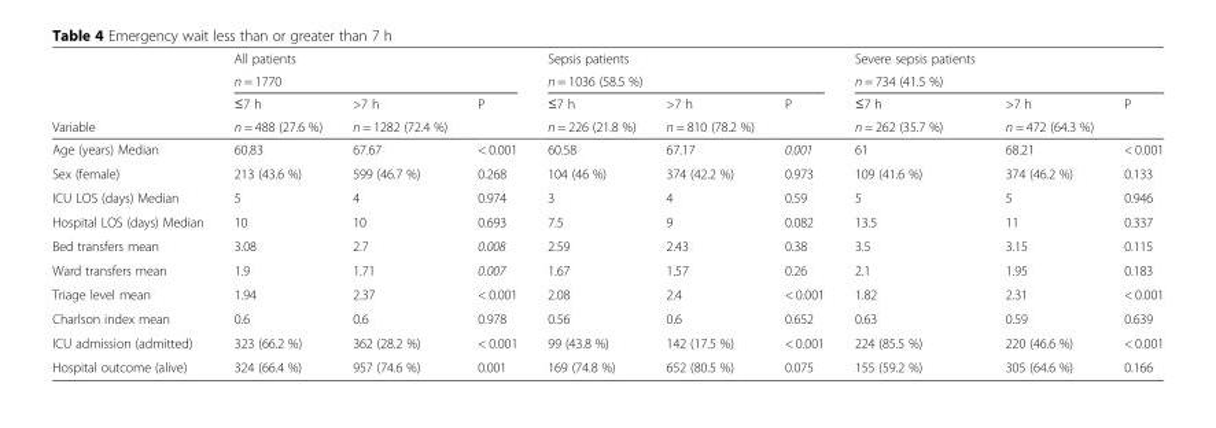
<table><thead><tr><td rowspan="4">Variable</td><td>All patients</td><td></td><td></td><td>Sepsis patients</td><td></td><td></td><td>Severe sepsis patients</td><td></td><td></td></tr><tr><td colspan="3">n = 1770</td><td colspan="3">n = 1036 (58.5 %)</td><td colspan="3">n = 734 (41.5 %)</td></tr><tr><td rowspan="2">≤7 h n = 488 (27.6 %)</td><td rowspan="2">&gt;7 h n = 1282 (72.4 %)</td><td rowspan="2">P</td><td rowspan="2">≤7 h n = 226 (21.8 %)</td><td rowspan="2">&gt;7 h n = 810 (78.2 %)</td><td rowspan="2">P</td><td rowspan="2">≤7 h n = 262 (35.7 %)</td><td rowspan="2">&gt;7 h n = 472 (64.3 %)</td><td rowspan="2">P</td></tr><tr></tr></thead><tbody><tr><td>Age (years) Median</td><td>60.83</td><td>67.67</td><td>&lt; 0.001</td><td>60.58</td><td>67.17</td><td>0.001</td><td>61</td><td>68.21</td><td>&lt; 0.001</td></tr><tr><td>Sex (female)</td><td>213 (43.6 %)</td><td>599 (46.7 %)</td><td>0.268</td><td>104 (46 %)</td><td>374 (42.2 %)</td><td>0.973</td><td>109 (41.6 %)</td><td>374 (46.2 %)</td><td>0.133</td></tr><tr><td>ICU LOS (days) Median</td><td>5</td><td>4</td><td>0.974</td><td>3</td><td>4</td><td>0.59</td><td>5</td><td>5</td><td>0.946</td></tr><tr><td>Hospital LOS (days) Median</td><td>10</td><td>10</td><td>0.693</td><td>7.5</td><td>9</td><td>0.082</td><td>13.5</td><td>11</td><td>0.337</td></tr><tr><td>Bed transfers mean</td><td>3.08</td><td>2.7</td><td>0.008</td><td>2.59</td><td>2.43</td><td>0.38</td><td>3.5</td><td>3.15</td><td>0.115</td></tr><tr><td>Ward transfers mean</td><td>1.9</td><td>1.71</td><td>0.007</td><td>1.67</td><td>1.57</td><td>0.26</td><td>2.1</td><td>1.95</td><td>0.183</td></tr><tr><td>Triage level mean</td><td>1.94</td><td>2.37</td><td>&lt; 0.001</td><td>2.08</td><td>2.4</td><td>&lt; 0.001</td><td>1.82</td><td>2.31</td><td>&lt; 0.001</td></tr><tr><td>Charlson index mean</td><td>0.6</td><td>0.6</td><td>0.978</td><td>0.56</td><td>0.6</td><td>0.652</td><td>0.63</td><td>0.59</td><td>0.639</td></tr><tr><td>ICU admission (admitted)</td><td>323 (66.2 %)</td><td>362 (28.2 %)</td><td>&lt; 0.001</td><td>99 (43.8 %)</td><td>142 (17.5 %)</td><td>&lt; 0.001</td><td>224 (85.5 %)</td><td>220 (46.6 %)</td><td>&lt; 0.001</td></tr><tr><td>Hospital outcome (alive)</td><td>324 (66.4 %)</td><td>957 (74.6 %)</td><td>0.001</td><td>169 (74.8 %)</td><td>652 (80.5 %)</td><td>0.075</td><td>155 (59.2 %)</td><td>305 (64.6 %)</td><td>0.166</td></tr></tbody></table>